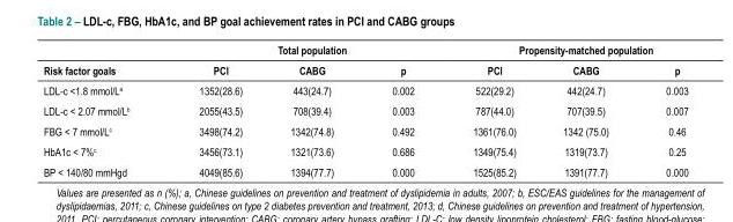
<table><thead><tr><td rowspan="2">Risk factor goals</td><td colspan="3">Total population</td><td colspan="3">Propensity-matched population</td></tr><tr><td>PCI</td><td>CABG</td><td>p</td><td>PCI</td><td>CABG</td><td>p</td></tr></thead><tbody><tr><td>LDL-c &lt;1.8 mmol/L<sup>a</sup></td><td>1352(28.6)</td><td>443(24.7)</td><td>0.002</td><td>522(29.2)</td><td>442(24.7)</td><td>0.003</td></tr><tr><td>LDL-c &lt; 2.07 mmol/L<sup>b</sup></td><td>2055(43.5)</td><td>708(39.4)</td><td>0.003</td><td>787(44.0)</td><td>707(39.5)</td><td>0.007</td></tr><tr><td>FBG &lt; 7 mmol/L<sup>c</sup></td><td>3498(74.2)</td><td>1342(74.8)</td><td>0.492</td><td>1361(76.0)</td><td>1342 (75.0)</td><td>0.46</td></tr><tr><td>HbA1c &lt; 7%<sup>c</sup></td><td>3456(73.1)</td><td>1321(73.6)</td><td>0.686</td><td>1349(75.4)</td><td>1319(73.7)</td><td>0.25</td></tr><tr><td>BP &lt; 140/80 mmHg<sup>d</sup></td><td>4049(85.6)</td><td>1394(77.7)</td><td>0.000</td><td>1525(85.2)</td><td>1391(77.7)</td><td>0.000</td></tr></tbody></table>